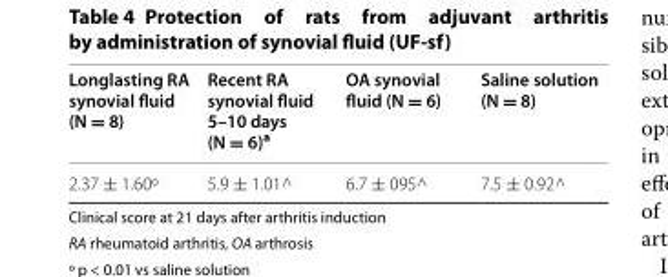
<table><thead><tr><td>Longlasting RA synovial fluid (N = 8)</td><td>Recent RA synovial fluid 5–10 days (N = 6)<sup>a</sup></td><td>OA synovial fluid (N = 6)</td><td>Saline solution (N = 8)</td></tr></thead><tbody><tr><td>2.37 ± 1.60º</td><td>5.9 ± 1.01^</td><td>6.7 ± 095^</td><td>7.5 ± 0.92^</td></tr></tbody></table>